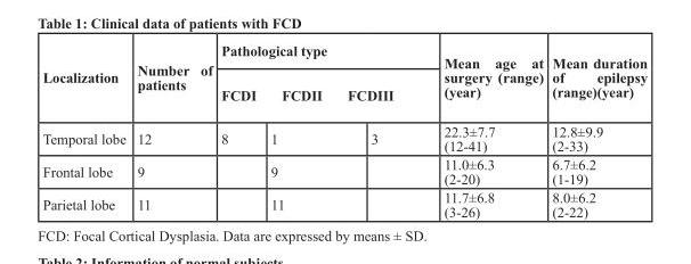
<table><thead><tr><td rowspan="2">Localization</td><td rowspan="2">Number of patients</td><td colspan="3">Pathological type</td><td rowspan="2">Mean age at surgery (range) (year)</td><td rowspan="2">Mean duration of epilepsy (range)(year)</td></tr><tr><td>FCDI</td><td>FCDII</td><td>FCDIII</td></tr></thead><tbody><tr><td>Temporal lobe</td><td>12</td><td>8</td><td>1</td><td>3</td><td>22.3±7.7 (12-41)</td><td>12.8±9.9 (2-33)</td></tr><tr><td>Frontal lobe</td><td>9</td><td></td><td>9</td><td></td><td>11.0±6.3 (2-20)</td><td>6.7±6.2 (1-19)</td></tr><tr><td>Parietal lobe</td><td>11</td><td></td><td>11</td><td></td><td>11.7±6.8 (3-26)</td><td>8.0±6.2 (2-22)</td></tr></tbody></table>